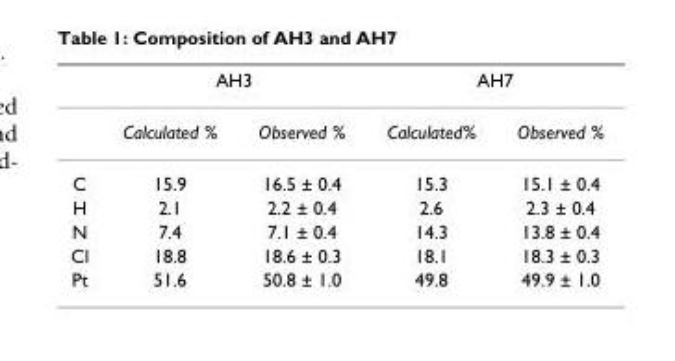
<table><thead><tr><td rowspan="2"></td><td colspan="2">AH3</td><td colspan="2">AH7</td></tr><tr><td>Calculated %</td><td>Observed %</td><td>Calculated%</td><td>Observed %</td></tr></thead><tbody><tr><td>C</td><td>15.9</td><td>16.5 ± 0.4</td><td>15.3</td><td>15.1 ± 0.4</td></tr><tr><td>H</td><td>2.1</td><td>2.2 ± 0.4</td><td>2.6</td><td>2.3 ± 0.4</td></tr><tr><td>N</td><td>7.4</td><td>7.1 ± 0.4</td><td>14.3</td><td>13.8 ± 0.4</td></tr><tr><td>Cl</td><td>18.8</td><td>18.6 ± 0.3</td><td>18.1</td><td>18.3 ± 0.3</td></tr><tr><td>Pt</td><td>51.6</td><td>50.8 ± 1.0</td><td>49.8</td><td>49.9 ± 1.0</td></tr></tbody></table>